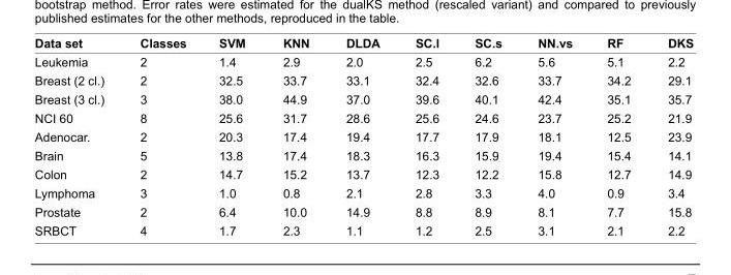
<table><thead><tr><td>Data set</td><td>Classes</td><td>sVM</td><td>Knn</td><td>DLDA</td><td>SC.l</td><td>SC.s</td><td>NN.vs</td><td>RF</td><td>DKs</td></tr></thead><tbody><tr><td>Leukemia</td><td>2</td><td>1.4</td><td>2.9</td><td>2.0</td><td>2.5</td><td>6.2</td><td>5.6</td><td>5.1</td><td>2.2</td></tr><tr><td>Breast (2 cl.)</td><td>2</td><td>32.5</td><td>33.7</td><td>33.1</td><td>32.4</td><td>32.6</td><td>33.7</td><td>34.2</td><td>29.1</td></tr><tr><td>Breast (3 cl.)</td><td>3</td><td>38.0</td><td>44.9</td><td>37.0</td><td>39.6</td><td>40.1</td><td>42.4</td><td>35.1</td><td>35.7</td></tr><tr><td>NCI 60</td><td>8</td><td>25.6</td><td>31.7</td><td>28.6</td><td>25.6</td><td>24.6</td><td>23.7</td><td>25.2</td><td>21.9</td></tr><tr><td>Adenocar.</td><td>2</td><td>20.3</td><td>17.4</td><td>19.4</td><td>17.7</td><td>17.9</td><td>18.1</td><td>12.5</td><td>23.9</td></tr><tr><td>Brain</td><td>5</td><td>13.8</td><td>17.4</td><td>18.3</td><td>16.3</td><td>15.9</td><td>19.4</td><td>15.4</td><td>14.1</td></tr><tr><td>Colon</td><td>2</td><td>14.7</td><td>15.2</td><td>13.7</td><td>12.3</td><td>12.2</td><td>15.8</td><td>12.7</td><td>14.9</td></tr><tr><td>Lymphoma</td><td>3</td><td>1.0</td><td>0.8</td><td>2.1</td><td>2.8</td><td>3.3</td><td>4.0</td><td>0.9</td><td>3.4</td></tr><tr><td>Prostate</td><td>2</td><td>6.4</td><td>10.0</td><td>14.9</td><td>8.8</td><td>8.9</td><td>8.1</td><td>7.7</td><td>15.8</td></tr><tr><td>SRBCT</td><td>4</td><td>1.7</td><td>2.3</td><td>1.1</td><td>1.2</td><td>2.5</td><td>3.1</td><td>2.1</td><td>2.2</td></tr></tbody></table>